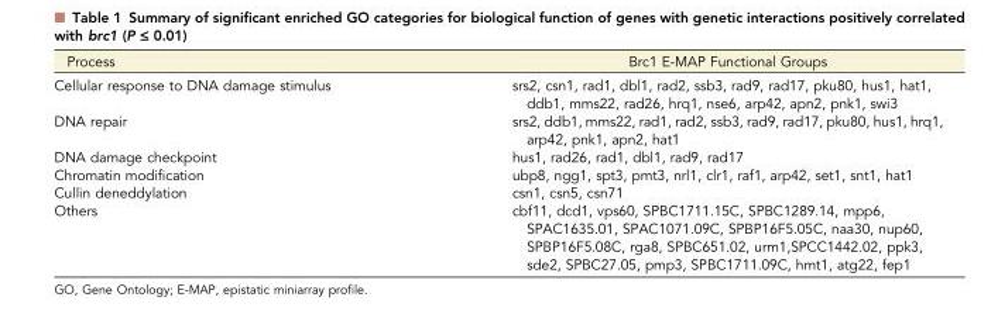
<table><thead><tr><td>Process</td><td>Brc1 E-MAP Functional Groups</td></tr></thead><tbody><tr><td>Cellular response to DNA damage stimulus</td><td>srs2, csn1, rad1, dbl1, rad2, ssb3, rad9, rad17, pku80, hus1, hat1, ddb1, mms22, rad26, hrq1, nse6, arp42, apn2, pnk1, swi3</td></tr><tr><td>DNA repair</td><td>srs2, ddb1, mms22, rad1, rad2, ssb3, rad9, rad17, pku80, hus1, hrq1, arp42, pnk1, apn2, hat1</td></tr><tr><td>DNA damage checkpoint</td><td>hus1, rad26, rad1, dbl1, rad9, rad17</td></tr><tr><td>Chromatin modification</td><td>ubp8, ngg1, spt3, pmt3, nrl1, clr1, raf1, arp42, set1, snt1, hat1</td></tr><tr><td>Cullin deneddylation</td><td>csn1, csn5, csn71</td></tr><tr><td>Others</td><td>cbf11, dcd1, vps60, SPBC1711.15C, SPBC1289.14, mpp6, SPAC1635.01, SPAC1071.09C, SPBP16F5.05C, naa30, nup60, SPBP16F5.08C, rga8, SPBC651.02, urm1,SPCC1442.02, ppk3, sde2, SPBC27.05, pmp3, SPBC1711.09C, hmt1, atg22, fep1</td></tr></tbody></table>